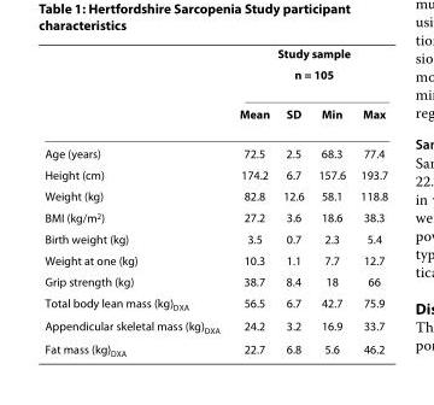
<table><thead><tr><td rowspan="3"></td><td rowspan="2" colspan="4">Study sample n = 105</td></tr><tr></tr><tr><td>Mean</td><td>SD</td><td>Min</td><td>Max</td></tr></thead><tbody><tr><td>Age (years)</td><td>72.5</td><td>2.5</td><td>68.3</td><td>77.4</td></tr><tr><td>Height (cm)</td><td>174.2</td><td>6.7</td><td>157.6</td><td>193.7</td></tr><tr><td>Weight (kg)</td><td>82.8</td><td>12.6</td><td>58.1</td><td>118.8</td></tr><tr><td>BMI (kg/m<sup>2</sup>)</td><td>27.2</td><td>3.6</td><td>18.6</td><td>38.3</td></tr><tr><td>Birth weight (kg)</td><td>3.5</td><td>0.7</td><td>2.3</td><td>5.4</td></tr><tr><td>Weight at one (kg)</td><td>10.3</td><td>1.1</td><td>7.7</td><td>12.7</td></tr><tr><td>Grip strength (kg)</td><td>38.7</td><td>8.4</td><td>18</td><td>66</td></tr><tr><td>Total body lean mass (kg)<sub>DXA</sub></td><td>56.5</td><td>6.7</td><td>42.7</td><td>75.9</td></tr><tr><td>Appendicular skeletal mass (kg)<sub>DXA</sub></td><td>24.2</td><td>3.2</td><td>16.9</td><td>33.7</td></tr><tr><td>Fat mass (kg)<sub>DXA</sub></td><td>22.7</td><td>6.8</td><td>5.6</td><td>46.2</td></tr></tbody></table>